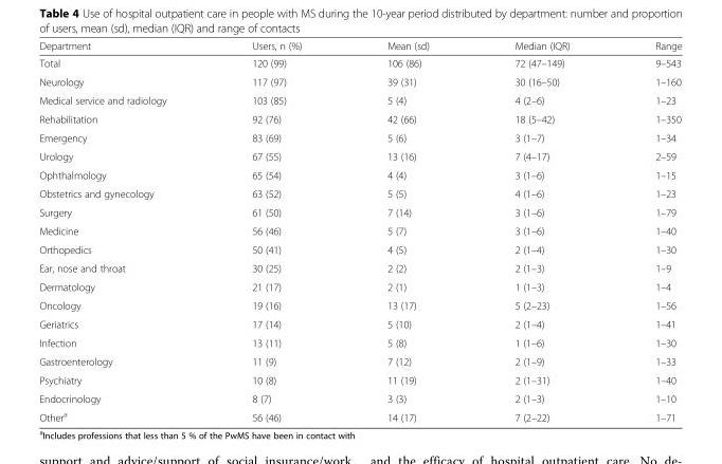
<table><thead><tr><td>Department</td><td>Users, n (%)</td><td>Mean (sd)</td><td>Median (IQR)</td><td>Range</td></tr></thead><tbody><tr><td>Total</td><td>120 (99)</td><td>106 (86)</td><td>72 (47–149)</td><td>9–543</td></tr><tr><td>Neurology</td><td>117 (97)</td><td>39 (31)</td><td>30 (16–50)</td><td>1–160</td></tr><tr><td>Medical service and radiology</td><td>103 (85)</td><td>5 (4)</td><td>4 (2–6)</td><td>1–23</td></tr><tr><td>Rehabilitation</td><td>92 (76)</td><td>42 (66)</td><td>18 (5–42)</td><td>1–350</td></tr><tr><td>Emergency</td><td>83 (69)</td><td>5 (6)</td><td>3 (1–7)</td><td>1–34</td></tr><tr><td>Urology</td><td>67 (55)</td><td>13 (16)</td><td>7 (4–17)</td><td>2–59</td></tr><tr><td>Ophthalmology</td><td>65 (54)</td><td>4 (4)</td><td>3 (1–6)</td><td>1–15</td></tr><tr><td>Obstetrics and gynecology</td><td>63 (52)</td><td>5 (5)</td><td>4 (1–6)</td><td>1–23</td></tr><tr><td>Surgery</td><td>61 (50)</td><td>7 (14)</td><td>3 (1–6)</td><td>1–79</td></tr><tr><td>Medicine</td><td>56 (46)</td><td>5 (7)</td><td>3 (1–6)</td><td>1–40</td></tr><tr><td>Orthopedics</td><td>50 (41)</td><td>4 (5)</td><td>2 (1–4)</td><td>1–30</td></tr><tr><td>Ear, nose and throat</td><td>30 (25)</td><td>2 (2)</td><td>2 (1–3)</td><td>1–9</td></tr><tr><td>Dermatology</td><td>21 (17)</td><td>2 (1)</td><td>1 (1–3)</td><td>1–4</td></tr><tr><td>Oncology</td><td>19 (16)</td><td>13 (17)</td><td>5 (2–23)</td><td>1–56</td></tr><tr><td>Geriatrics</td><td>17 (14)</td><td>5 (10)</td><td>2 (1–4)</td><td>1–41</td></tr><tr><td>Infection</td><td>13 (11)</td><td>5 (8)</td><td>1 (1–6)</td><td>1–30</td></tr><tr><td>Gastroenterology</td><td>11 (9)</td><td>7 (12)</td><td>2 (1–9)</td><td>1–33</td></tr><tr><td>Psychiatry</td><td>10 (8)</td><td>11 (19)</td><td>2 (1–31)</td><td>1–40</td></tr><tr><td>Endocrinology</td><td>8 (7)</td><td>3 (3)</td><td>2 (1–3)</td><td>1–10</td></tr><tr><td>Other<sup>a</sup></td><td>56 (46)</td><td>14 (17)</td><td>7 (2–22)</td><td>1–71</td></tr></tbody></table>